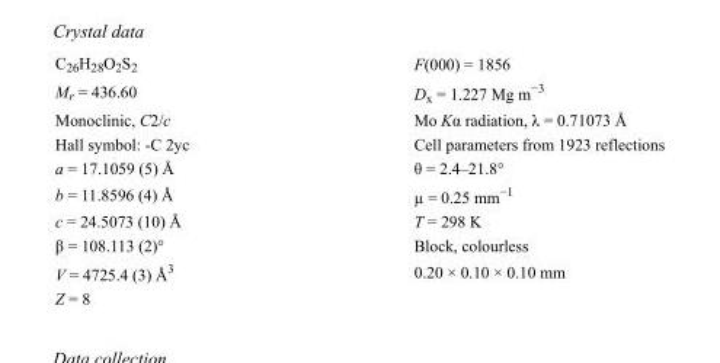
<table><tbody><tr><td>C<sub>26</sub>H<sub>28</sub>O<sub>2</sub>S<sub>2</sub></td><td>F(000) = 1856</td></tr><tr><td>M<sub>r</sub> = 436.60</td><td>D<sub>x</sub> = 1.227 Mg m<sup>−3</sup></td></tr><tr><td>Monoclinic, C2/c</td><td>Mo Kα radiation, λ = 0.71073 Å</td></tr><tr><td>Hall symbol: -C 2yc</td><td>Cell parameters from 1923 reflections</td></tr><tr><td>a = 17.1059 (5) Å</td><td>θ = 2.4–21.8°</td></tr><tr><td>b = 11.8596 (4) Å</td><td>µ = 0.25 mm<sup>−1</sup></td></tr><tr><td>c = 24.5073 (10) Å</td><td>T = 298 K</td></tr><tr><td>β = 108.113 (2)°</td><td>Block, colourless</td></tr><tr><td>V = 4725.4 (3) Å<sup>3</sup></td><td>0.20 × 0.10 × 0.10 mm</td></tr><tr><td>Z = 8</td><td></td></tr></tbody></table>